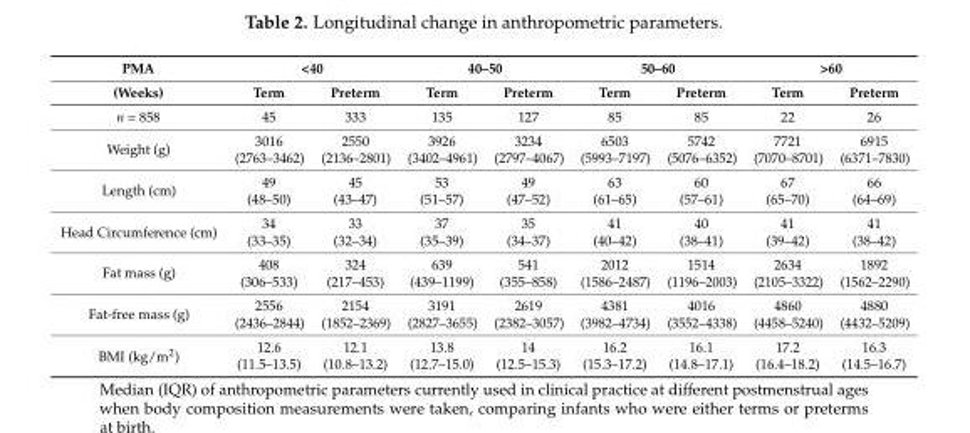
<table><thead><tr><td rowspan="2">PMA (Weeks)</td><td colspan="2">&lt;40</td><td colspan="2">40–50</td><td colspan="2">50–60</td><td colspan="2">&gt;60</td></tr><tr><td>Term</td><td>Preterm</td><td>Term</td><td>Preterm</td><td>Term</td><td>Preterm</td><td>Term</td><td>Preterm</td></tr></thead><tbody><tr><td>n = 858</td><td>45</td><td>333</td><td>135</td><td>127</td><td>85</td><td>85</td><td>22</td><td>26</td></tr><tr><td rowspan="2">Weight (g)</td><td>3016</td><td>2550</td><td>3926</td><td>3234</td><td>6503</td><td>5742</td><td>7721</td><td>6915</td></tr><tr><td>(2763–3462)</td><td>(2136–2801)</td><td>(3402–4961)</td><td>(2797–4067)</td><td>(5993–7197)</td><td>(5076–6352)</td><td>(7070–8701)</td><td>(6371–7830)</td></tr><tr><td rowspan="2">Length (cm)</td><td>49</td><td>45</td><td>53</td><td>49</td><td>63</td><td>60</td><td>67</td><td>66</td></tr><tr><td>(48–50)</td><td>(43–47)</td><td>(51–57)</td><td>(47–52)</td><td>(61–65)</td><td>(57–61)</td><td>(65–70)</td><td>(64–69)</td></tr><tr><td rowspan="2">Head Circumference (cm)</td><td>34</td><td>33</td><td>37</td><td>35</td><td>41</td><td>40</td><td>41</td><td>41</td></tr><tr><td>(33–35)</td><td>(32–34)</td><td>(35–39)</td><td>(34–37)</td><td>(40–42)</td><td>(38–41)</td><td>(39–42)</td><td>(38–42)</td></tr><tr><td rowspan="2">Fat mass (g)</td><td>408</td><td>324</td><td>639</td><td>541</td><td>2012</td><td>1514</td><td>2634</td><td>1892</td></tr><tr><td>(306–533)</td><td>(217–453)</td><td>(439–1199)</td><td>(355–858)</td><td>(1586–2487)</td><td>(1196–2003)</td><td>(2105–3322)</td><td>(1562–2290)</td></tr><tr><td rowspan="2">Fat-free mass (g)</td><td>2556</td><td>2154</td><td>3191</td><td>2619</td><td>4381</td><td>4016</td><td>4860</td><td>4880</td></tr><tr><td>(2436–2844)</td><td>(1852–2369)</td><td>(2827–3655)</td><td>(2382–3057)</td><td>(3982–4734)</td><td>(3552–4338)</td><td>(4458–5240)</td><td>(4432–5209)</td></tr><tr><td rowspan="2">BMI (kg/m<sup>2</sup>)</td><td>12.6</td><td>12.1</td><td>13.8</td><td>14</td><td>16.2</td><td>16.1</td><td>17.2</td><td>16.3</td></tr><tr><td>(11.5–13.5)</td><td>(10.8–13.2)</td><td>(12.7–15.0)</td><td>(12.5–15.3)</td><td>(15.3–17.2)</td><td>(14.8–17.1)</td><td>(16.4–18.2)</td><td>(14.5–16.7)</td></tr></tbody></table>